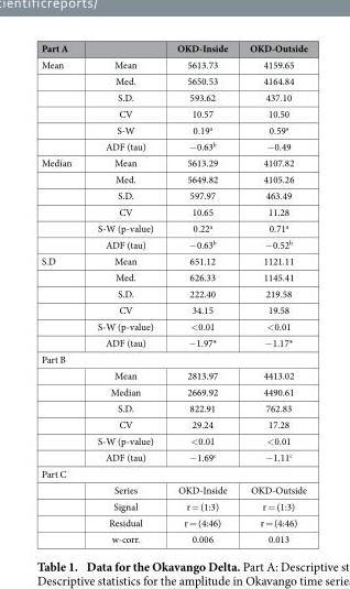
<table><thead><tr><td>Part A</td><td></td><td>OKD-Inside</td><td>OKD-Outside</td></tr></thead><tbody><tr><td rowspan="6">Mean</td><td>Mean</td><td>5613.73</td><td>4159.65</td></tr><tr><td>Med.</td><td>5650.53</td><td>4164.84</td></tr><tr><td>S.D.</td><td>593.62</td><td>437.10</td></tr><tr><td>CV</td><td>10.57</td><td>10.50</td></tr><tr><td>S-W</td><td>0.19<sup>a</sup></td><td>0.59<sup>a</sup></td></tr><tr><td>ADF (tau)</td><td>− 0.63<sup>b</sup></td><td>− 0.49</td></tr><tr><td rowspan="6">Median</td><td>Mean</td><td>5613.29</td><td>4107.82</td></tr><tr><td>Med.</td><td>5649.82</td><td>4105.26</td></tr><tr><td>S.D.</td><td>597.97</td><td>463.49</td></tr><tr><td>CV</td><td>10.65</td><td>11.28</td></tr><tr><td>S-W (p-value)</td><td>0.22<sup>a</sup></td><td>0.71<sup>a</sup></td></tr><tr><td>ADF (tau)</td><td>− 0.63<sup>b</sup></td><td>− 0.52<sup>b</sup></td></tr><tr><td rowspan="6">S.D</td><td>Mean</td><td>651.12</td><td>1121.11</td></tr><tr><td>Med.</td><td>626.33</td><td>1145.41</td></tr><tr><td>S.D.</td><td>222.40</td><td>219.58</td></tr><tr><td>CV</td><td>34.15</td><td>19.58</td></tr><tr><td>S-W (p-value)</td><td>&lt; 0.01</td><td>&lt; 0.01</td></tr><tr><td>ADF (tau)</td><td>− 1.97*</td><td>− 1.17*</td></tr><tr><td colspan="4">Part B</td></tr><tr><td></td><td>Mean</td><td>2813.97</td><td>4413.02</td></tr><tr><td></td><td>Median</td><td>2669.92</td><td>4490.61</td></tr><tr><td></td><td>S.D.</td><td>822.91</td><td>762.83</td></tr><tr><td></td><td>CV</td><td>29.24</td><td>17.28</td></tr><tr><td></td><td>S-W (p-value)</td><td>&lt; 0.01</td><td>&lt; 0.01</td></tr><tr><td></td><td>ADF (tau)</td><td>− 1.69<sup>c</sup></td><td>− 1.11<sup>c</sup></td></tr><tr><td colspan="4">Part C</td></tr><tr><td></td><td>Series</td><td>OKD-Inside</td><td>OKD-Outside</td></tr><tr><td></td><td>Signal</td><td>r = (1:3)</td><td>r = (1:3)</td></tr><tr><td></td><td>Residual</td><td>r = (4:46)</td><td>r = (4:46)</td></tr><tr><td></td><td>w-corr.</td><td>0.006</td><td>0.013</td></tr></tbody></table>